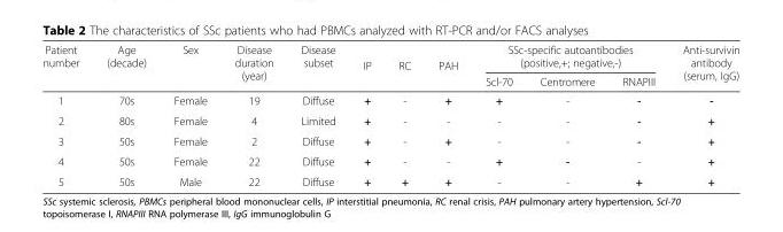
<table><thead><tr><td rowspan="2">Patient number</td><td rowspan="2">Age (decade)</td><td rowspan="2">Sex</td><td rowspan="2">Disease duration (year)</td><td rowspan="2">Disease subset</td><td rowspan="2">IP</td><td rowspan="2">RC</td><td rowspan="2">PAH</td><td colspan="3">SSc-specific autoantibodies (positive,+; negative,-)</td><td rowspan="2">Anti-survivin antibody (serum, IgG)</td></tr><tr><td>Scl-70</td><td>Centromere</td><td>RNAPIII</td></tr></thead><tbody><tr><td>1</td><td>70s</td><td>Female</td><td>19</td><td>Diffuse</td><td>+</td><td>-</td><td>+</td><td>+</td><td>-</td><td>-</td><td>-</td></tr><tr><td>2</td><td>80s</td><td>Female</td><td>4</td><td>Limited</td><td>+</td><td>-</td><td>-</td><td>-</td><td>-</td><td>-</td><td>+</td></tr><tr><td>3</td><td>50s</td><td>Female</td><td>2</td><td>Diffuse</td><td>+</td><td>-</td><td>+</td><td>-</td><td>-</td><td>-</td><td>+</td></tr><tr><td>4</td><td>50s</td><td>Female</td><td>22</td><td>Diffuse</td><td>+</td><td>-</td><td>-</td><td>+</td><td>-</td><td>-</td><td>+</td></tr><tr><td>5</td><td>50s</td><td>Male</td><td>22</td><td>Diffuse</td><td>+</td><td>+</td><td>+</td><td>-</td><td>-</td><td>+</td><td>+</td></tr></tbody></table>